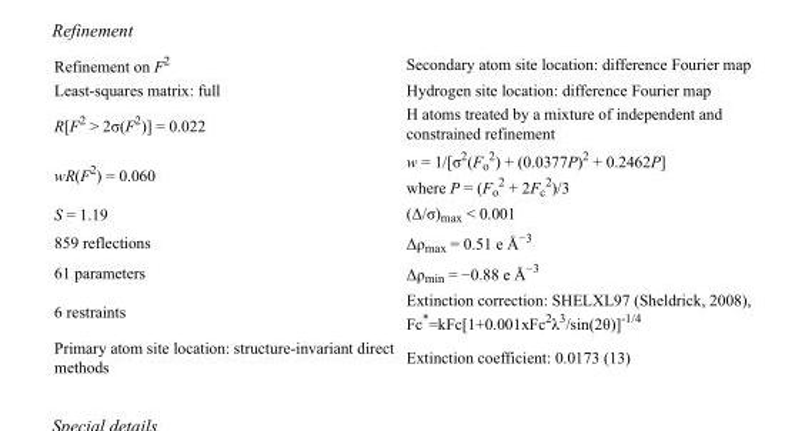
<table><tbody><tr><td>Refinement on F<sup>2</sup></td><td>Secondary atom site location: difference Fourier map</td></tr><tr><td>Least-squares matrix: full</td><td>Hydrogen site location: difference Fourier map</td></tr><tr><td>R[F<sup>2</sup> &gt; 2σ(F<sup>2</sup>)] = 0.022</td><td>H atoms treated by a mixture of independent and constrained refinement</td></tr><tr><td>wR(F<sup>2</sup>) = 0.060</td><td>w = 1/[σ<sup>2</sup>(F<sub>o</sub> <sup>2</sup>) + (0.0377P)<sup>2</sup> + 0.2462P] where P = (F<sub>o</sub> <sup>2</sup> + 2F<sub>c</sub> <sup>2</sup>)/3</td></tr><tr><td>S = 1.19</td><td>(Δ/σ)<sub>max</sub> &lt; 0.001</td></tr><tr><td>859 reflections</td><td>Δρ<sub>max</sub> = 0.51 e Å<sup>−3</sup></td></tr><tr><td>61 parameters</td><td>Δρ<sub>min</sub> = −0.88 e Å<sup>−3</sup></td></tr><tr><td>6 restraints</td><td>Extinction correction: SHELXL97 (Sheldrick, 2008), Fc*=kFc[1+0.001xFc<sup>2</sup>λ<sup>3</sup>/sin(2θ)]<sup>-1/4</sup></td></tr><tr><td>Primary atom site location: structure-invariant direct methods</td><td>Extinction coefficient: 0.0173 (13)</td></tr></tbody></table>